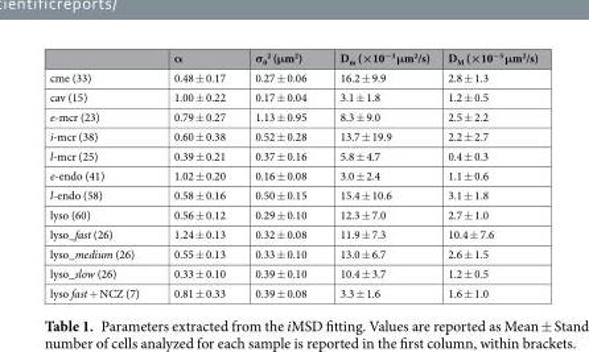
<table><thead><tr><td></td><td>α</td><td>σ<sub>0</sub> <sup>2</sup> (μm<sup>2</sup>)</td><td>D<sub>m</sub> (×10<sup>−3</sup> μm<sup>2</sup>/s)</td><td>D<sub>M</sub> (×10<sup>−3</sup> μm<sup>2</sup>/s)</td></tr></thead><tbody><tr><td>cme (33)</td><td>0.48 ± 0.17</td><td>0.27 ± 0.06</td><td>16.2 ± 9.9</td><td>2.8 ± 1.3</td></tr><tr><td>cav (15)</td><td>1.00 ± 0.22</td><td>0.17 ± 0.04</td><td>3.1 ± 1.8</td><td>1.2 ± 0.5</td></tr><tr><td>e-mcr (23)</td><td>0.79 ± 0.27</td><td>1.13 ± 0.95</td><td>8.3 ± 9.0</td><td>2.5 ± 2.2</td></tr><tr><td>i-mcr (38)</td><td>0.60 ± 0.38</td><td>0.52 ± 0.28</td><td>13.7 ± 19.9</td><td>2.2 ± 2.7</td></tr><tr><td>l-mcr (25)</td><td>0.39 ± 0.21</td><td>0.37 ± 0.16</td><td>5.8 ± 4.7</td><td>0.4 ± 0.3</td></tr><tr><td>e-endo (41)</td><td>1.02 ± 0.20</td><td>0.16 ± 0.08</td><td>3.0 ± 2.4</td><td>1.1 ± 0.6</td></tr><tr><td>l-endo (58)</td><td>0.58 ± 0.16</td><td>0.50 ± 0.15</td><td>15.4 ± 10.6</td><td>3.1 ± 1.8</td></tr><tr><td>lyso (60)</td><td>0.56 ± 0.12</td><td>0.29 ± 0.10</td><td>12.3 ± 7.0</td><td>2.7 ± 1.0</td></tr><tr><td>lyso_fast (26)</td><td>1.24 ± 0.13</td><td>0.32 ± 0.08</td><td>11.9 ± 7.3</td><td>10.4 ± 7.6</td></tr><tr><td>lyso_medium (26)</td><td>0.55 ± 0.13</td><td>0.33 ± 0.10</td><td>13.0 ± 6.7</td><td>2.6 ± 1.5</td></tr><tr><td>lyso_slow (26)</td><td>0.33 ± 0.10</td><td>0.39 ± 0.10</td><td>10.4 ± 3.7</td><td>1.2 ± 0.5</td></tr><tr><td>lyso fast + NCZ (7)</td><td>0.81 ± 0.33</td><td>0.39 ± 0.08</td><td>3.3 ± 1.6</td><td>1.6 ± 1.0</td></tr></tbody></table>